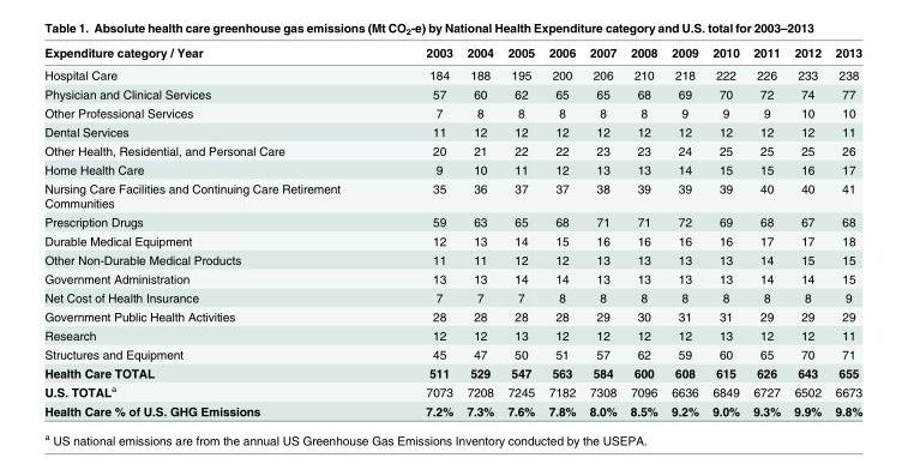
<table><thead><tr><td>Expenditure category / Year</td><td>2003</td><td>2004</td><td>2005</td><td>2006</td><td>2007</td><td>2008</td><td>2009</td><td>2010</td><td>2011</td><td>2012</td><td>2013</td></tr></thead><tbody><tr><td>Hospital Care</td><td>184</td><td>188</td><td>195</td><td>200</td><td>206</td><td>210</td><td>218</td><td>222</td><td>226</td><td>233</td><td>238</td></tr><tr><td>Physician and Clinical Services</td><td>57</td><td>60</td><td>62</td><td>65</td><td>65</td><td>68</td><td>69</td><td>70</td><td>72</td><td>74</td><td>77</td></tr><tr><td>Other Professional Services</td><td>7</td><td>8</td><td>8</td><td>8</td><td>8</td><td>8</td><td>9</td><td>9</td><td>9</td><td>10</td><td>10</td></tr><tr><td>Dental Services</td><td>11</td><td>12</td><td>12</td><td>12</td><td>12</td><td>12</td><td>12</td><td>12</td><td>12</td><td>12</td><td>11</td></tr><tr><td>Other Health, Residential, and Personal Care</td><td>20</td><td>21</td><td>22</td><td>22</td><td>23</td><td>23</td><td>24</td><td>25</td><td>25</td><td>25</td><td>26</td></tr><tr><td>Home Health Care</td><td>9</td><td>10</td><td>11</td><td>12</td><td>13</td><td>13</td><td>14</td><td>15</td><td>15</td><td>16</td><td>17</td></tr><tr><td>Nursing Care Facilities and Continuing Care Retirement Communities</td><td>35</td><td>36</td><td>37</td><td>37</td><td>38</td><td>39</td><td>39</td><td>39</td><td>40</td><td>40</td><td>41</td></tr><tr><td>Prescription Drugs</td><td>59</td><td>63</td><td>65</td><td>68</td><td>71</td><td>71</td><td>72</td><td>69</td><td>68</td><td>67</td><td>68</td></tr><tr><td>Durable Medical Equipment</td><td>12</td><td>13</td><td>14</td><td>15</td><td>16</td><td>16</td><td>16</td><td>16</td><td>17</td><td>17</td><td>18</td></tr><tr><td>Other Non-Durable Medical Products</td><td>11</td><td>11</td><td>12</td><td>12</td><td>13</td><td>13</td><td>13</td><td>13</td><td>14</td><td>15</td><td>15</td></tr><tr><td>Government Administration</td><td>13</td><td>13</td><td>14</td><td>14</td><td>13</td><td>13</td><td>13</td><td>13</td><td>14</td><td>14</td><td>15</td></tr><tr><td>Net Cost of Health Insurance</td><td>7</td><td>7</td><td>7</td><td>8</td><td>8</td><td>8</td><td>8</td><td>8</td><td>8</td><td>8</td><td>9</td></tr><tr><td>Government Public Health Activities</td><td>28</td><td>28</td><td>28</td><td>28</td><td>29</td><td>30</td><td>31</td><td>31</td><td>29</td><td>29</td><td>29</td></tr><tr><td>Research</td><td>12</td><td>12</td><td>13</td><td>12</td><td>12</td><td>12</td><td>12</td><td>13</td><td>12</td><td>12</td><td>11</td></tr><tr><td>Structures and Equipment</td><td>45</td><td>47</td><td>50</td><td>51</td><td>57</td><td>62</td><td>59</td><td>60</td><td>65</td><td>70</td><td>71</td></tr><tr><td>Health Care TOTAL</td><td>511</td><td>529</td><td>547</td><td>563</td><td>584</td><td>600</td><td>608</td><td>615</td><td>626</td><td>643</td><td>655</td></tr><tr><td>U.S. TOTAL<sup>a</sup></td><td>7073</td><td>7208</td><td>7245</td><td>7182</td><td>7308</td><td>7096</td><td>6636</td><td>6849</td><td>6727</td><td>6502</td><td>6673</td></tr><tr><td>Health Care % of U.S. GHG Emissions</td><td>7.2%</td><td>7.3%</td><td>7.6%</td><td>7.8%</td><td>8.0%</td><td>8.5%</td><td>9.2%</td><td>9.0%</td><td>9.3%</td><td>9.9%</td><td>9.8%</td></tr></tbody></table>